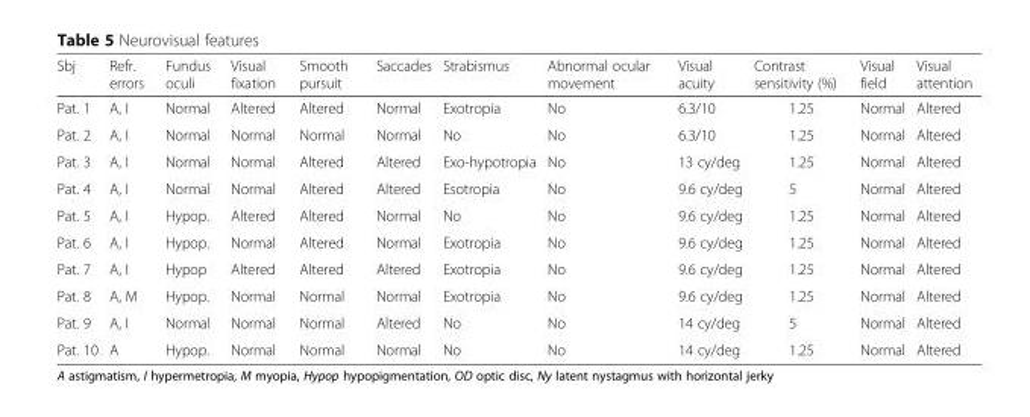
<table><thead><tr><td>Sbj</td><td>Refr. errors</td><td>Fundus oculi</td><td>Visual fixation</td><td>Smooth pursuit</td><td>Saccades</td><td>Strabismus</td><td>Abnormal ocular movement</td><td>Visual acuity</td><td>Contrast sensitivity (%)</td><td>Visual field</td><td>Visual attention</td></tr></thead><tbody><tr><td>Pat. 1</td><td>A, I</td><td>Normal</td><td>Altered</td><td>Altered</td><td>Normal</td><td>Exotropia</td><td>No</td><td>6.3/10</td><td>1.25</td><td>Normal</td><td>Altered</td></tr><tr><td>Pat. 2</td><td>A, I</td><td>Normal</td><td>Normal</td><td>Normal</td><td>Normal</td><td>No</td><td>No</td><td>6.3/10</td><td>1.25</td><td>Normal</td><td>Altered</td></tr><tr><td>Pat. 3</td><td>A, I</td><td>Normal</td><td>Normal</td><td>Altered</td><td>Altered</td><td>Exo-hypotropia</td><td>No</td><td>13 cy/deg</td><td>1.25</td><td>Normal</td><td>Altered</td></tr><tr><td>Pat. 4</td><td>A, I</td><td>Normal</td><td>Normal</td><td>Altered</td><td>Altered</td><td>Esotropia</td><td>No</td><td>9.6 cy/deg</td><td>5</td><td>Normal</td><td>Altered</td></tr><tr><td>Pat. 5</td><td>A, I</td><td>Hypop.</td><td>Altered</td><td>Altered</td><td>Normal</td><td>No</td><td>No</td><td>9.6 cy/deg</td><td>1.25</td><td>Normal</td><td>Altered</td></tr><tr><td>Pat. 6</td><td>A, I</td><td>Hypop.</td><td>Normal</td><td>Altered</td><td>Normal</td><td>Exotropia</td><td>No</td><td>9.6 cy/deg</td><td>1.25</td><td>Normal</td><td>Altered</td></tr><tr><td>Pat. 7</td><td>A, I</td><td>Hypop</td><td>Altered</td><td>Altered</td><td>Altered</td><td>Exotropia</td><td>No</td><td>9.6 cy/deg</td><td>1.25</td><td>Normal</td><td>Altered</td></tr><tr><td>Pat. 8</td><td>A, M</td><td>Hypop.</td><td>Normal</td><td>Normal</td><td>Normal</td><td>Exotropia</td><td>No</td><td>9.6 cy/deg</td><td>1.25</td><td>Normal</td><td>Altered</td></tr><tr><td>Pat. 9</td><td>A, I</td><td>Normal</td><td>Normal</td><td>Normal</td><td>Altered</td><td>No</td><td>No</td><td>14 cy/deg</td><td>5</td><td>Normal</td><td>Altered</td></tr><tr><td>Pat. 10</td><td>A</td><td>Hypop.</td><td>Normal</td><td>Normal</td><td>Normal</td><td>No</td><td>No</td><td>14 cy/deg</td><td>1.25</td><td>Normal</td><td>Altered</td></tr></tbody></table>